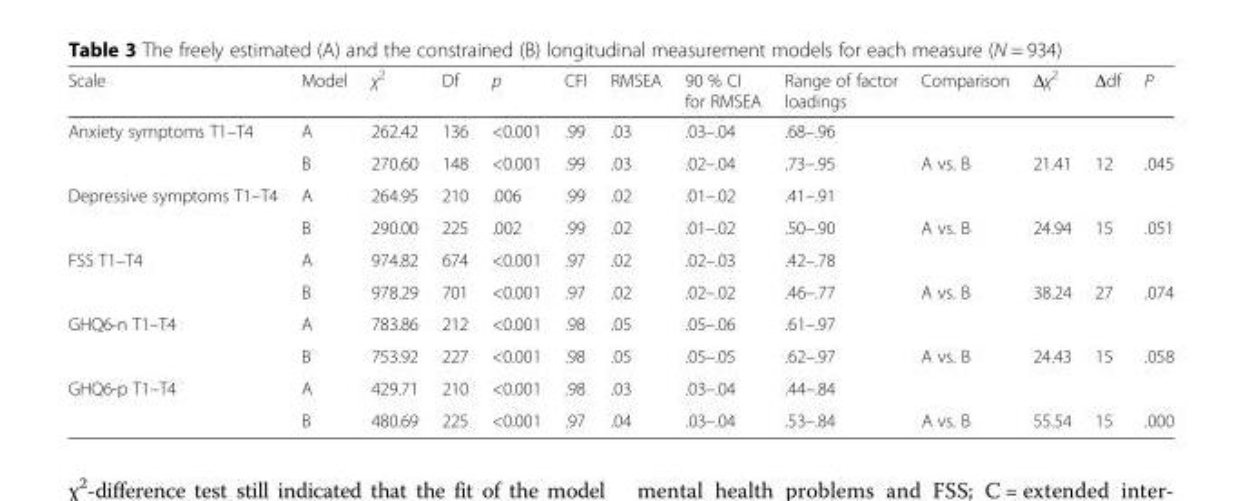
<table><thead><tr><td>Scale</td><td>Model</td><td>χ<sup>2</sup></td><td>Df</td><td>p</td><td>CFI</td><td>RMSEA</td><td>90 % CI for RMSEA</td><td>Range of factor loadings</td><td>Comparison</td><td>Δχ2</td><td>Δdf</td><td>P</td></tr></thead><tbody><tr><td rowspan="2">Anxiety symptoms T1–T4</td><td>A</td><td>262.42</td><td>136</td><td>&lt;0.001</td><td>.99</td><td>.03</td><td>.03–.04</td><td>.68–.96</td><td></td><td></td><td></td><td></td></tr><tr><td>B</td><td>270.60</td><td>148</td><td>&lt;0.001</td><td>.99</td><td>.03</td><td>.02–.04</td><td>.73–.95</td><td>A vs. B</td><td>21.41</td><td>12</td><td>.045</td></tr><tr><td rowspan="2">Depressive symptoms T1–T4</td><td>A</td><td>264.95</td><td>210</td><td>.006</td><td>.99</td><td>.02</td><td>.01–.02</td><td>.41–.91</td><td></td><td></td><td></td><td></td></tr><tr><td>B</td><td>290.00</td><td>225</td><td>.002</td><td>.99</td><td>.02</td><td>.01–.02</td><td>.50–.90</td><td>A vs. B</td><td>24.94</td><td>15</td><td>.051</td></tr><tr><td rowspan="2">FSS T1–T4</td><td>A</td><td>974.82</td><td>674</td><td>&lt;0.001</td><td>.97</td><td>.02</td><td>.02–.03</td><td>.42–.78</td><td></td><td></td><td></td><td></td></tr><tr><td>B</td><td>978.29</td><td>701</td><td>&lt;0.001</td><td>.97</td><td>.02</td><td>.02–.02</td><td>.46–.77</td><td>A vs. B</td><td>38.24</td><td>27</td><td>.074</td></tr><tr><td rowspan="2">GHQ6-n T1–T4</td><td>A</td><td>783.86</td><td>212</td><td>&lt;0.001</td><td>.98</td><td>.05</td><td>.05–.06</td><td>.61–.97</td><td></td><td></td><td></td><td></td></tr><tr><td>B</td><td>753.92</td><td>227</td><td>&lt;0.001</td><td>.98</td><td>.05</td><td>.05–.05</td><td>.62–.97</td><td>A vs. B</td><td>24.43</td><td>15</td><td>.058</td></tr><tr><td rowspan="2">GHQ6-p T1–T4</td><td>A</td><td>429.71</td><td>210</td><td>&lt;0.001</td><td>.98</td><td>.03</td><td>.03–.04</td><td>.44–.84</td><td></td><td></td><td></td><td></td></tr><tr><td>B</td><td>480.69</td><td>225</td><td>&lt;0.001</td><td>.97</td><td>.04</td><td>.03–.04</td><td>.53–.84</td><td>A vs. B</td><td>55.54</td><td>15</td><td>.000</td></tr></tbody></table>